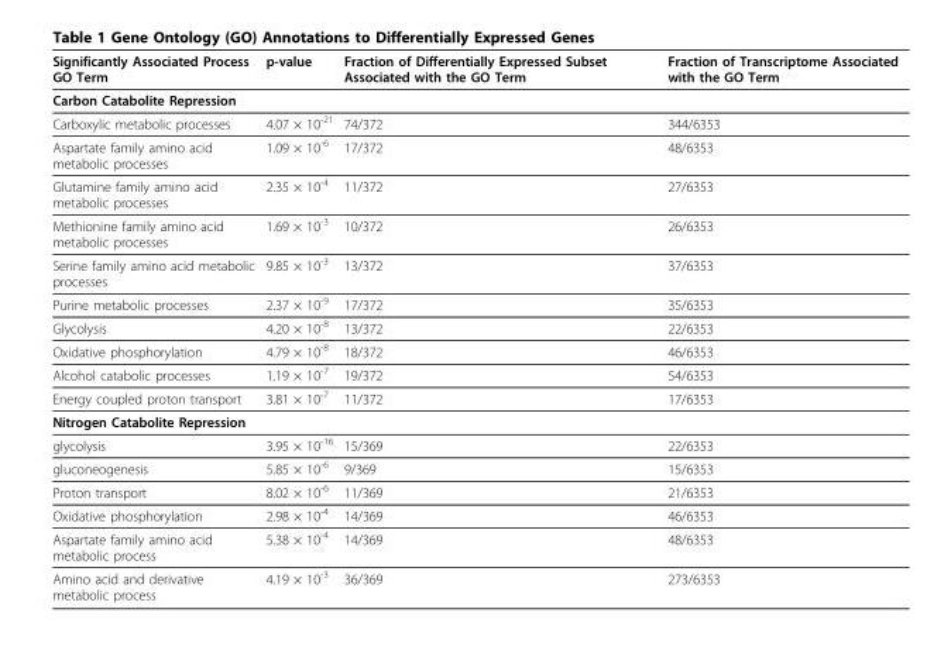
<table><thead><tr><td>Significantly Associated Process GO Term</td><td>p-value</td><td>Fraction of Differentially Expressed Subset Associated with the GO Term</td><td>Fraction of Transcriptome Associated with the GO Term</td></tr></thead><tbody><tr><td colspan="4">Carbon Catabolite Repression</td></tr><tr><td>Carboxylic metabolic processes</td><td>4.07 × 10<sup>-21</sup></td><td>74/372</td><td>344/6353</td></tr><tr><td>Aspartate family amino acid metabolic processes</td><td>1.09 × 10<sup>-6</sup></td><td>17/372</td><td>48/6353</td></tr><tr><td>Glutamine family amino acid metabolic processes</td><td>2.35 × 10<sup>-4</sup></td><td>11/372</td><td>27/6353</td></tr><tr><td>Methionine family amino acid metabolic processes</td><td>1.69 × 10<sup>-3</sup></td><td>10/372</td><td>26/6353</td></tr><tr><td>Serine family amino acid metabolic processes</td><td>9.85 × 10<sup>-3</sup></td><td>13/372</td><td>37/6353</td></tr><tr><td>Purine metabolic processes</td><td>2.37 × 10<sup>-9</sup></td><td>17/372</td><td>35/6353</td></tr><tr><td>Glycolysis</td><td>4.20 × 10<sup>-8</sup></td><td>13/372</td><td>22/6353</td></tr><tr><td>Oxidative phosphorylation</td><td>4.79 × 10<sup>-8</sup></td><td>18/372</td><td>46/6353</td></tr><tr><td>Alcohol catabolic processes</td><td>1.19 × 10<sup>-7</sup></td><td>19/372</td><td>54/6353</td></tr><tr><td>Energy coupled proton transport</td><td>3.81 × 10<sup>-7</sup></td><td>11/372</td><td>17/6353</td></tr><tr><td colspan="4">Nitrogen Catabolite Repression</td></tr><tr><td>glycolysis</td><td>3.95 × 10<sup>-16</sup></td><td>15/369</td><td>22/6353</td></tr><tr><td>gluconeogenesis</td><td>5.85 × 10<sup>-6</sup></td><td>9/369</td><td>15/6353</td></tr><tr><td>Proton transport</td><td>8.02 × 10<sup>-6</sup></td><td>11/369</td><td>21/6353</td></tr><tr><td>Oxidative phosphorylation</td><td>2.98 × 10<sup>-4</sup></td><td>14/369</td><td>46/6353</td></tr><tr><td>Aspartate family amino acid metabolic process</td><td>5.38 × 10<sup>-4</sup></td><td>14/369</td><td>48/6353</td></tr><tr><td>Amino acid and derivative metabolic process</td><td>4.19 × 10<sup>-3</sup></td><td>36/369</td><td>273/6353</td></tr></tbody></table>